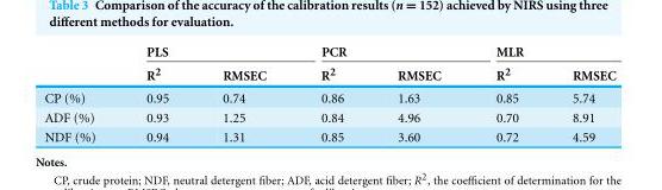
<table><thead><tr><td rowspan="2"></td><td colspan="2">PLS</td><td colspan="2">PCR</td><td colspan="2">MLR</td></tr><tr><td>R<sup>2</sup></td><td>RMSEC</td><td>R<sup>2</sup></td><td>RMSEC</td><td>R<sup>2</sup></td><td>RMSEC</td></tr></thead><tbody><tr><td>CP (%)</td><td>0.95</td><td>0.74</td><td>0.86</td><td>1.63</td><td>0.85</td><td>5.74</td></tr><tr><td>ADF (%)</td><td>0.93</td><td>1.25</td><td>0.84</td><td>4.96</td><td>0.70</td><td>8.91</td></tr><tr><td>NDF (%)</td><td>0.94</td><td>1.31</td><td>0.85</td><td>3.60</td><td>0.72</td><td>4.59</td></tr></tbody></table>